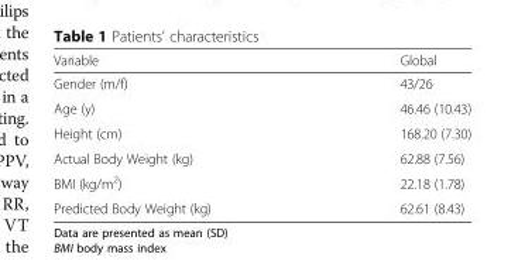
<table><thead><tr><td>Variable</td><td>Global</td></tr></thead><tbody><tr><td>Gender (m/f)</td><td>43/26</td></tr><tr><td>Age (y)</td><td>46.46 (10.43)</td></tr><tr><td>Height (cm)</td><td>168.20 (7.30)</td></tr><tr><td>Actual Body Weight (kg)</td><td>62.88 (7.56)</td></tr><tr><td>BMI (kg/m<sup>2</sup>)</td><td>22.18 (1.78)</td></tr><tr><td>Predicted Body Weight (kg)</td><td>62.61 (8.43)</td></tr></tbody></table>